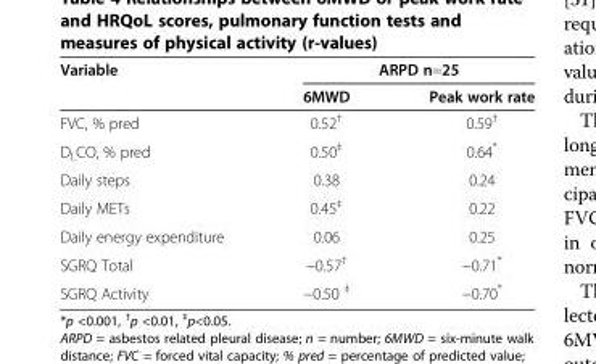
<table><thead><tr><td rowspan="2">Variable</td><td colspan="2">ARPD n=25</td></tr><tr><td>6MWD</td><td>Peak work rate</td></tr></thead><tbody><tr><td>FVC, % pred</td><td>0.52<sup>†</sup></td><td>0.59<sup>†</sup></td></tr><tr><td>D<sub>L</sub>CO, % pred</td><td>0.50<sup>‡</sup></td><td>0.64*</td></tr><tr><td>Daily steps</td><td>0.38</td><td>0.24</td></tr><tr><td>Daily METs</td><td>0.45<sup>‡</sup></td><td>0.22</td></tr><tr><td>Daily energy expenditure</td><td>0.06</td><td>0.25</td></tr><tr><td>SGRQ Total</td><td>−0.57<sup>†</sup></td><td>−0.71*</td></tr><tr><td>SGRQ Activity</td><td>−0.50 <sup>‡</sup></td><td>−0.70*</td></tr></tbody></table>